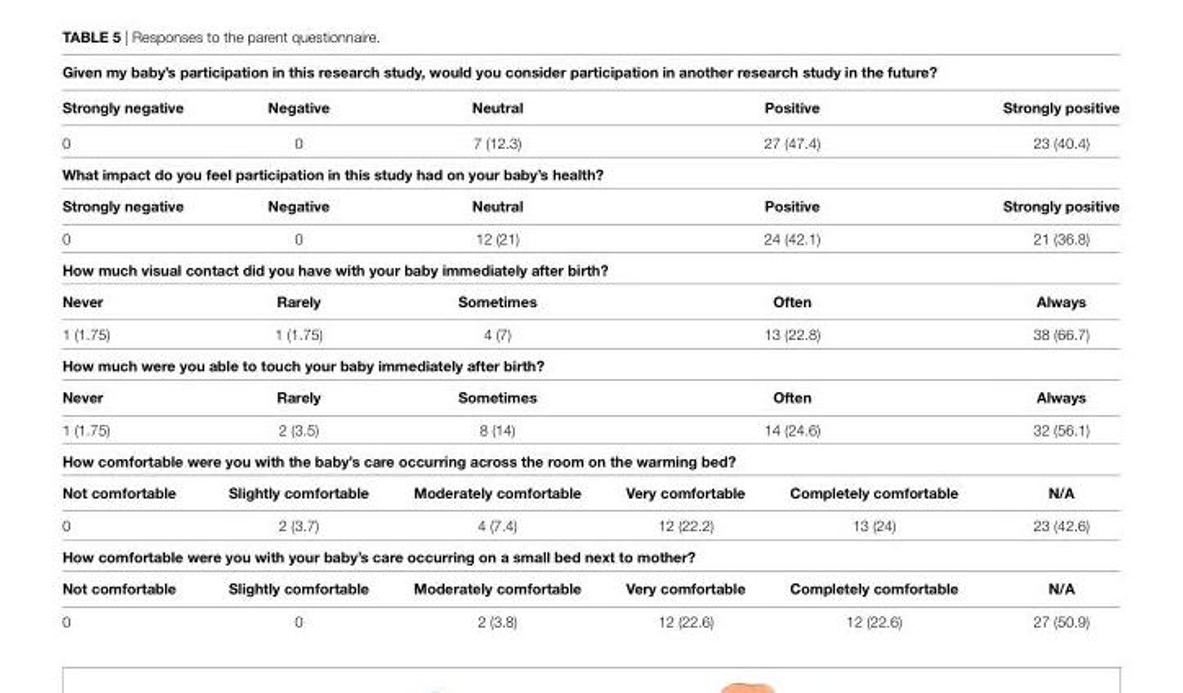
<table><tbody><tr><td colspan="6">given my baby’s participation in this research study, would you consider participation in another research study in the future?</td></tr><tr><td>strongly negative</td><td>negative</td><td>neutral</td><td colspan="2">Positive</td><td>strongly positive</td></tr><tr><td>0</td><td>0</td><td>7 (12.3)</td><td colspan="2">27 (47.4)</td><td>23 (40.4)</td></tr><tr><td colspan="6">What impact do you feel participation in this study had on your baby’s health?</td></tr><tr><td>strongly negative</td><td>negative</td><td>neutral</td><td colspan="2">Positive</td><td>strongly positive</td></tr><tr><td>0</td><td>0</td><td>12 (21)</td><td colspan="2">24 (42.1)</td><td>21 (36.8)</td></tr><tr><td colspan="6">how much visual contact did you have with your baby immediately after birth?</td></tr><tr><td>never</td><td>rarely</td><td>sometimes</td><td colspan="2">Often</td><td>always</td></tr><tr><td>1 (1.75)</td><td>1 (1.75)</td><td>4 (7)</td><td colspan="2">13 (22.8)</td><td>38 (66.7)</td></tr><tr><td colspan="6">how much were you able to touch your baby immediately after birth?</td></tr><tr><td>never</td><td>rarely</td><td>sometimes</td><td colspan="2">Often</td><td>always</td></tr><tr><td>1 (1.75)</td><td>2 (3.5)</td><td>8 (14)</td><td colspan="2">14 (24.6)</td><td>32 (56.1)</td></tr><tr><td colspan="6">how comfortable were you with the baby’s care occurring across the room on the warming bed?</td></tr><tr><td>not comfortable</td><td>slightly comfortable</td><td>Moderately comfortable</td><td>Very comfortable</td><td>completely comfortable</td><td>n/a</td></tr><tr><td>0</td><td>2 (3.7)</td><td>4 (7.4)</td><td>12 (22.2)</td><td>13 (24)</td><td>23 (42.6)</td></tr><tr><td colspan="6">how comfortable were you with your baby’s care occurring on a small bed next to mother?</td></tr><tr><td>not comfortable</td><td>slightly comfortable</td><td>Moderately comfortable</td><td>Very comfortable</td><td>completely comfortable</td><td>n/a</td></tr><tr><td>0</td><td>0</td><td>2 (3.8)</td><td>12 (22.6)</td><td>12 (22.6)</td><td>27 (50.9)</td></tr></tbody></table>